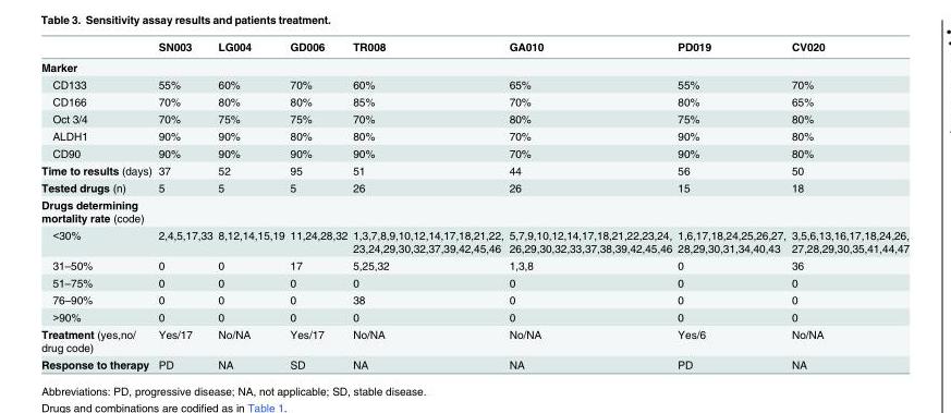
<table><thead><tr><td></td><td>SN003</td><td>LG004</td><td>GD006</td><td>TR008</td><td>GA010</td><td>PD019</td><td>CV020</td></tr></thead><tbody><tr><td colspan="8">Marker</td></tr><tr><td>CD133</td><td>55%</td><td>60%</td><td>70%</td><td>60%</td><td>65%</td><td>55%</td><td>70%</td></tr><tr><td>CD166</td><td>70%</td><td>80%</td><td>80%</td><td>85%</td><td>70%</td><td>80%</td><td>65%</td></tr><tr><td>Oct 3/4</td><td>70%</td><td>75%</td><td>75%</td><td>70%</td><td>80%</td><td>75%</td><td>80%</td></tr><tr><td>ALDH1</td><td>90%</td><td>90%</td><td>80%</td><td>80%</td><td>70%</td><td>90%</td><td>80%</td></tr><tr><td>CD90</td><td>90%</td><td>90%</td><td>90%</td><td>90%</td><td>70%</td><td>90%</td><td>80%</td></tr><tr><td>Time to results (days)</td><td>37</td><td>52</td><td>95</td><td>51</td><td>44</td><td>56</td><td>50</td></tr><tr><td>Tested drugs (n)</td><td>5</td><td>5</td><td>5</td><td>26</td><td>26</td><td>15</td><td>18</td></tr><tr><td colspan="8">Drugs determining mortality rate (code)</td></tr><tr><td>&lt;30%</td><td>2,4,5,17,33</td><td>8,12,14,15,19</td><td>11,24,28,32</td><td>1,3,7,8,9,10,12,14,17,18,21,22, 23,24,29,30,32,37,39,42,45,46</td><td>5,7,9,10,12,14,17,18,21,22,23,24, 26,29,30,32,33,37,38,39,42,45,46</td><td>1,6,17,18,24,25,26,27, 28,29,30,31,34,40,43</td><td>3,5,6,13,16,17,18,24,26, 27,28,29,30,35,41,44,47</td></tr><tr><td>31–50%</td><td>0</td><td>0</td><td>17</td><td>5,25,32</td><td>1,3,8</td><td>0</td><td>36</td></tr><tr><td>51–75%</td><td>0</td><td>0</td><td>0</td><td>0</td><td>0</td><td>0</td><td>0</td></tr><tr><td>76–90%</td><td>0</td><td>0</td><td>0</td><td>38</td><td>0</td><td>0</td><td>0</td></tr><tr><td>&gt;90%</td><td>0</td><td>0</td><td>0</td><td>0</td><td>0</td><td>0</td><td>0</td></tr><tr><td>Treatment (yes,no/ drug code)</td><td>Yes/17</td><td>No/NA</td><td>Yes/17</td><td>No/NA</td><td>No/NA</td><td>Yes/6</td><td>No/NA</td></tr><tr><td>Response to therapy</td><td>PD</td><td>NA</td><td>SD</td><td>NA</td><td>NA</td><td>PD</td><td>NA</td></tr></tbody></table>